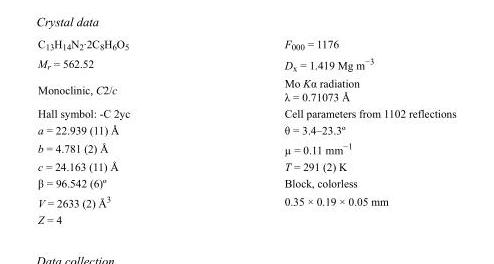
<table><tbody><tr><td>C<sub>13</sub>H<sub>14</sub>N<sub>2</sub>·2C<sub>8</sub>H<sub>6</sub>O<sub>5</sub></td><td>F<sub>000</sub> = 1176</td></tr><tr><td>M<sub>r</sub> = 562.52</td><td>D<sub>x</sub> = 1.419 Mg m<sup>−3</sup></td></tr><tr><td>Monoclinic, C2/c</td><td>Mo Kα radiation λ = 0.71073 Å</td></tr><tr><td>Hall symbol: -C 2yc</td><td>Cell parameters from 1102 reflections</td></tr><tr><td>a = 22.939 (11) Å</td><td>θ = 3.4–23.3º</td></tr><tr><td>b = 4.781 (2) Å</td><td>µ = 0.11 mm<sup>−1</sup></td></tr><tr><td>c = 24.163 (11) Å</td><td>T = 291 (2) K</td></tr><tr><td>β = 96.542 (6)º</td><td>Block, colorless</td></tr><tr><td>V = 2633 (2) Å<sup>3</sup></td><td>0.35 × 0.19 × 0.05 mm</td></tr><tr><td>Z = 4</td><td></td></tr></tbody></table>